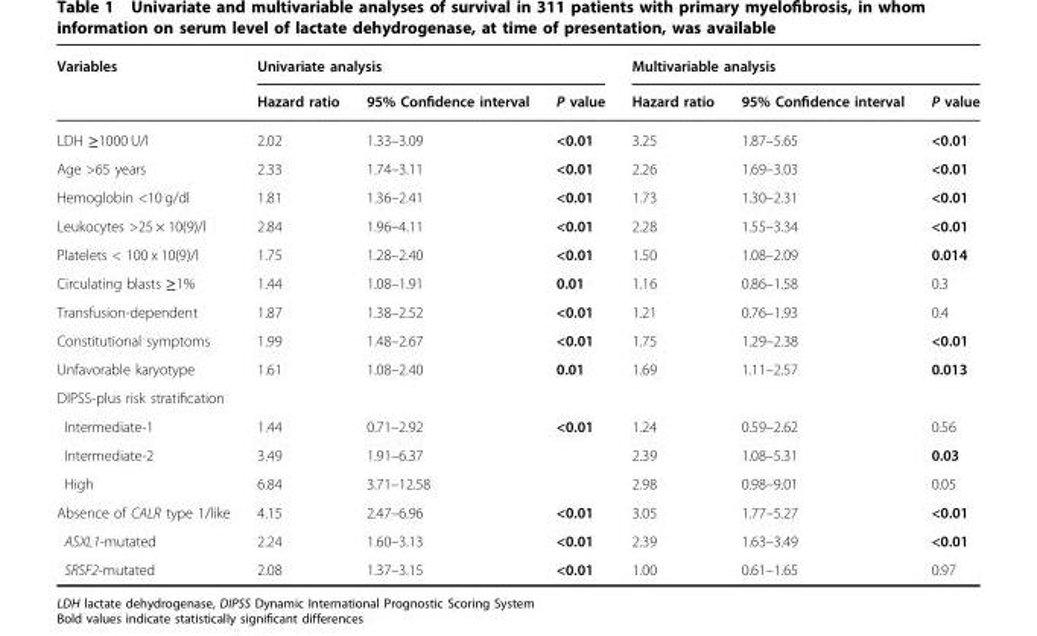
<table><thead><tr><td rowspan="2">Variables</td><td colspan="3">Univariate analysis</td><td colspan="3">Multivariable analysis</td></tr><tr><td>Hazard ratio</td><td>95% Confidence interval</td><td>P value</td><td>Hazard ratio</td><td>95% Confidence interval</td><td>P value</td></tr></thead><tbody><tr><td>LDH ≥1000 U/l</td><td>2.02</td><td>1.33–3.09</td><td>&lt;0.01</td><td>3.25</td><td>1.87–5.65</td><td>&lt;0.01</td></tr><tr><td>Age &gt;65 years</td><td>2.33</td><td>1.74–3.11</td><td>&lt;0.01</td><td>2.26</td><td>1.69–3.03</td><td>&lt;0.01</td></tr><tr><td>Hemoglobin &lt;10 g/dl</td><td>1.81</td><td>1.36–2.41</td><td>&lt;0.01</td><td>1.73</td><td>1.30–2.31</td><td>&lt;0.01</td></tr><tr><td>Leukocytes &gt;25 × 10(9)/l</td><td>2.84</td><td>1.96–4.11</td><td>&lt;0.01</td><td>2.28</td><td>1.55–3.34</td><td>&lt;0.01</td></tr><tr><td>Platelets &lt; 100 x 10(9)/l</td><td>1.75</td><td>1.28–2.40</td><td>&lt;0.01</td><td>1.50</td><td>1.08–2.09</td><td>0.014</td></tr><tr><td>Circulating blasts ≥1%</td><td>1.44</td><td>1.08–1.91</td><td>0.01</td><td>1.16</td><td>0.86–1.58</td><td>0.3</td></tr><tr><td>Transfusion-dependent</td><td>1.87</td><td>1.38–2.52</td><td>&lt;0.01</td><td>1.21</td><td>0.76–1.93</td><td>0.4</td></tr><tr><td>Constitutional symptoms</td><td>1.99</td><td>1.48–2.67</td><td>&lt;0.01</td><td>1.75</td><td>1.29–2.38</td><td>&lt;0.01</td></tr><tr><td>Unfavorable karyotype</td><td>1.61</td><td>1.08–2.40</td><td>0.01</td><td>1.69</td><td>1.11–2.57</td><td>0.013</td></tr><tr><td colspan="7">DIPSS-plus risk stratification</td></tr><tr><td>Intermediate-1</td><td>1.44</td><td>0.71–2.92</td><td>&lt;0.01</td><td>1.24</td><td>0.59–2.62</td><td>0.56</td></tr><tr><td>Intermediate-2</td><td>3.49</td><td>1.91–6.37</td><td></td><td>2.39</td><td>1.08–5.31</td><td>0.03</td></tr><tr><td>High</td><td>6.84</td><td>3.71–12.58</td><td></td><td>2.98</td><td>0.98–9.01</td><td>0.05</td></tr><tr><td>Absence of CALR type 1/like</td><td>4.15</td><td>2.47–6.96</td><td>&lt;0.01</td><td>3.05</td><td>1.77–5.27</td><td>&lt;0.01</td></tr><tr><td>ASXL1-mutated</td><td>2.24</td><td>1.60–3.13</td><td>&lt;0.01</td><td>2.39</td><td>1.63–3.49</td><td>&lt;0.01</td></tr><tr><td>SRSF2-mutated</td><td>2.08</td><td>1.37–3.15</td><td>&lt;0.01</td><td>1.00</td><td>0.61–1.65</td><td>0.97</td></tr></tbody></table>